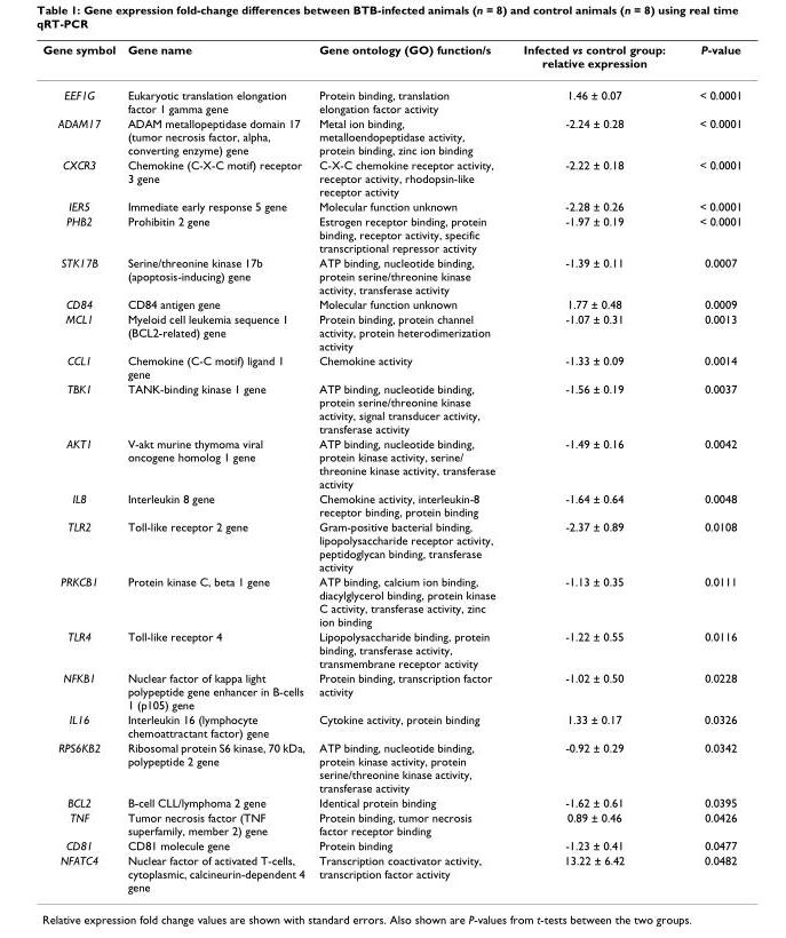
<table><thead><tr><td>Gene symbol</td><td>Gene name</td><td>Gene ontology (GO) function/s</td><td>Infected vs control group: relative expression</td><td>P-value</td></tr></thead><tbody><tr><td>EEF1G</td><td>Eukaryotic translation elongation factor 1 gamma gene</td><td>Protein binding, translation elongation factor activity</td><td>1.46 ± 0.07</td><td>&lt; 0.0001</td></tr><tr><td>ADAM17</td><td>ADAM metallopeptidase domain 17 (tumor necrosis factor, alpha, converting enzyme) gene</td><td>Metal ion binding, metalloendopeptidase activity, protein binding, zinc ion binding</td><td>-2.24 ± 0.28</td><td>&lt; 0.0001</td></tr><tr><td>CXCR3</td><td>Chemokine (C-X-C motif) receptor 3 gene</td><td>C-X-C chemokine receptor activity, receptor activity, rhodopsin-like receptor activity</td><td>-2.22 ± 0.18</td><td>&lt; 0.0001</td></tr><tr><td>IER5</td><td>Immediate early response 5 gene</td><td>Molecular function unknown</td><td>-2.28 ± 0.26</td><td>&lt; 0.0001</td></tr><tr><td>PHB2</td><td>Prohibitin 2 gene</td><td>Estrogen receptor binding, protein binding, receptor activity, specific transcriptional repressor activity</td><td>-1.97 ± 0.19</td><td>&lt; 0.0001</td></tr><tr><td>STK17B</td><td>Serine/threonine kinase 17b (apoptosis-inducing) gene</td><td>ATP binding, nucleotide binding, protein serine/threonine kinase activity, transferase activity</td><td>-1.39 ± 0.11</td><td>0.0007</td></tr><tr><td>CD84</td><td>CD84 antigen gene</td><td>Molecular function unknown</td><td>1.77 ± 0.48</td><td>0.0009</td></tr><tr><td>MCL1</td><td>Myeloid cell leukemia sequence 1 (BCL2-related) gene</td><td>Protein binding, protein channel activity, protein heterodimerization activity</td><td>-1.07 ± 0.31</td><td>0.0013</td></tr><tr><td>CCL1</td><td>Chemokine (C-C motif) ligand 1 gene</td><td>Chemokine activity</td><td>-1.33 ± 0.09</td><td>0.0014</td></tr><tr><td>TBK1</td><td>TANK-binding kinase 1 gene</td><td>ATP binding, nucleotide binding, protein serine/threonine kinase activity, signal transducer activity, transferase activity</td><td>-1.56 ± 0.19</td><td>0.0037</td></tr><tr><td>AKT1</td><td>V-akt murine thymoma viral oncogene homolog 1 gene</td><td>ATP binding, nucleotide binding, protein kinase activity, serine/ threonine kinase activity, transferase activity</td><td>-1.49 ± 0.16</td><td>0.0042</td></tr><tr><td>IL8</td><td>Interleukin 8 gene</td><td>Chemokine activity, interleukin-8 receptor binding, protein binding</td><td>-1.64 ± 0.64</td><td>0.0048</td></tr><tr><td>TLR2</td><td>Toll-like receptor 2 gene</td><td>Gram-positive bacterial binding, lipopolysaccharide receptor activity, peptidoglycan binding, transferase activity</td><td>-2.37 ± 0.89</td><td>0.0108</td></tr><tr><td>PRKCB1</td><td>Protein kinase C, beta 1 gene</td><td>ATP binding, calcium ion binding, diacylglycerol binding, protein kinase C activity, transferase activity, zinc ion binding</td><td>-1.13 ± 0.35</td><td>0.0111</td></tr><tr><td>TLR4</td><td>Toll-like receptor 4</td><td>Lipopolysaccharide binding, protein binding, transferase activity, transmembrane receptor activity</td><td>-1.22 ± 0.55</td><td>0.0116</td></tr><tr><td>NFKB1</td><td>Nuclear factor of kappa light polypeptide gene enhancer in B-cells 1 (p105) gene</td><td>Protein binding, transcription factor activity</td><td>-1.02 ± 0.50</td><td>0.0228</td></tr><tr><td>IL16</td><td>Interleukin 16 (lymphocyte chemoattractant factor) gene</td><td>Cytokine activity, protein binding</td><td>1.33 ± 0.17</td><td>0.0326</td></tr><tr><td>RPS6KB2</td><td>Ribosomal protein S6 kinase, 70 kDa, polypeptide 2 gene</td><td>ATP binding, nucleotide binding, protein kinase activity, protein serine/threonine kinase activity, transferase activity</td><td>-0.92 ± 0.29</td><td>0.0342</td></tr><tr><td>BCL2</td><td>B-cell CLL/lymphoma 2 gene</td><td>Identical protein binding</td><td>-1.62 ± 0.61</td><td>0.0395</td></tr><tr><td>TNF</td><td>Tumor necrosis factor (TNF superfamily, member 2) gene</td><td>Protein binding, tumor necrosis factor receptor binding</td><td>0.89 ± 0.46</td><td>0.0426</td></tr><tr><td>CD81</td><td>CD81 molecule gene</td><td>Protein binding</td><td>-1.23 ± 0.41</td><td>0.0477</td></tr><tr><td>NFATC4</td><td>Nuclear factor of activated T-cells, cytoplasmic, calcineurin-dependent 4 gene</td><td>Transcription coactivator activity, transcription factor activity</td><td>13.22 ± 6.42</td><td>0.0482</td></tr></tbody></table>